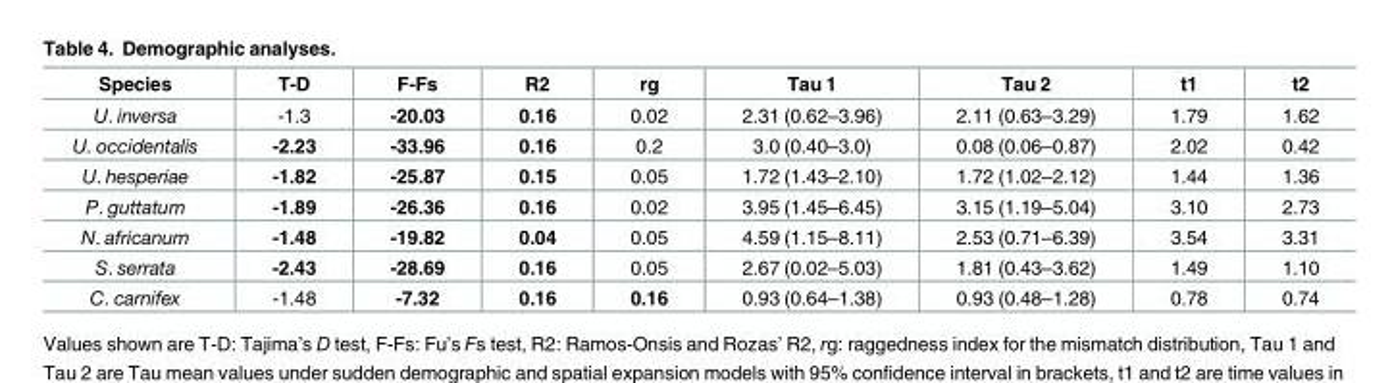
<table><thead><tr><td>Species</td><td>T-D</td><td>F-Fs</td><td>R2</td><td>rg</td><td>Tau 1</td><td>Tau 2</td><td>t1</td><td>t2</td></tr></thead><tbody><tr><td>U. inversa</td><td>-1.3</td><td>-20.03</td><td>0.16</td><td>0.02</td><td>2.31 (0.62–3.96)</td><td>2.11 (0.63–3.29)</td><td>1.79</td><td>1.62</td></tr><tr><td>U. occidentalis</td><td>-2.23</td><td>-33.96</td><td>0.16</td><td>0.2</td><td>3.0 (0.40–3.0)</td><td>0.08 (0.06–0.87)</td><td>2.02</td><td>0.42</td></tr><tr><td>U. hesperiae</td><td>-1.82</td><td>-25.87</td><td>0.15</td><td>0.05</td><td>1.72 (1.43–2.10)</td><td>1.72 (1.02–2.12)</td><td>1.44</td><td>1.36</td></tr><tr><td>P. guttatum</td><td>-1.89</td><td>-26.36</td><td>0.16</td><td>0.02</td><td>3.95 (1.45–6.45)</td><td>3.15 (1.19–5.04)</td><td>3.10</td><td>2.73</td></tr><tr><td>N. africanum</td><td>-1.48</td><td>-19.82</td><td>0.04</td><td>0.05</td><td>4.59 (1.15–8.11)</td><td>2.53 (0.71–6.39)</td><td>3.54</td><td>3.31</td></tr><tr><td>S. serrata</td><td>-2.43</td><td>-28.69</td><td>0.16</td><td>0.05</td><td>2.67 (0.02–5.03)</td><td>1.81 (0.43–3.62)</td><td>1.49</td><td>1.10</td></tr><tr><td>C. carnifex</td><td>-1.48</td><td>-7.32</td><td>0.16</td><td>0.16</td><td>0.93 (0.64–1.38)</td><td>0.93 (0.48–1.28)</td><td>0.78</td><td>0.74</td></tr></tbody></table>